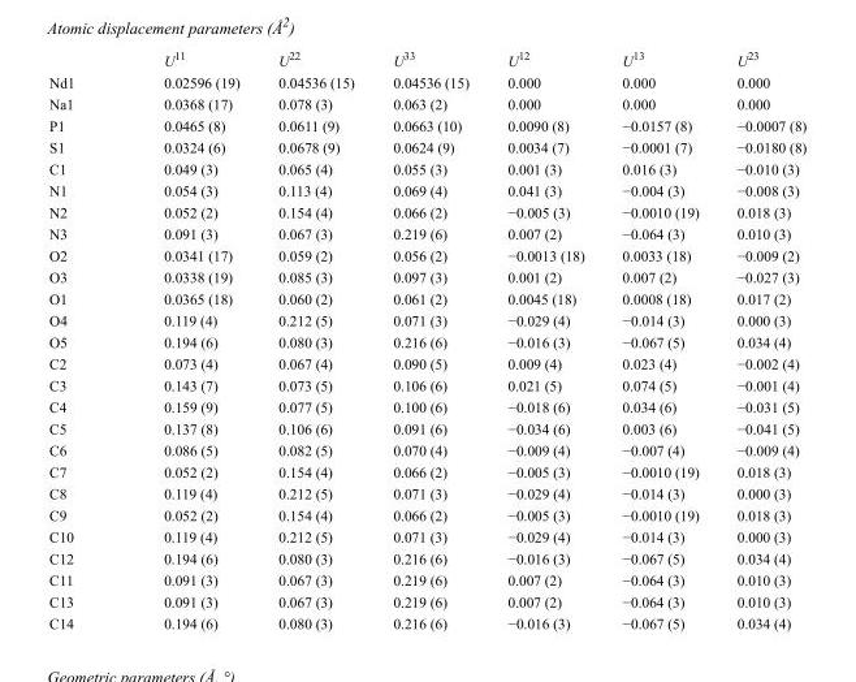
<table><thead><tr><td></td><td>U<sup>11</sup></td><td>U<sup>22</sup></td><td>U<sup>33</sup></td><td>U<sup>12</sup></td><td>U<sup>13</sup></td><td>U<sup>23</sup></td></tr></thead><tbody><tr><td>Nd1</td><td>0.02596 (19)</td><td>0.04536 (15)</td><td>0.04536 (15)</td><td>0.000</td><td>0.000</td><td>0.000</td></tr><tr><td>Na1</td><td>0.0368 (17)</td><td>0.078 (3)</td><td>0.063 (2)</td><td>0.000</td><td>0.000</td><td>0.000</td></tr><tr><td>P1</td><td>0.0465 (8)</td><td>0.0611 (9)</td><td>0.0663 (10)</td><td>0.0090 (8)</td><td>−0.0157 (8)</td><td>−0.0007 (8)</td></tr><tr><td>S1</td><td>0.0324 (6)</td><td>0.0678 (9)</td><td>0.0624 (9)</td><td>0.0034 (7)</td><td>−0.0001 (7)</td><td>−0.0180 (8)</td></tr><tr><td>C1</td><td>0.049 (3)</td><td>0.065 (4)</td><td>0.055 (3)</td><td>0.001 (3)</td><td>0.016 (3)</td><td>−0.010 (3)</td></tr><tr><td>N1</td><td>0.054 (3)</td><td>0.113 (4)</td><td>0.069 (4)</td><td>0.041 (3)</td><td>−0.004 (3)</td><td>−0.008 (3)</td></tr><tr><td>N2</td><td>0.052 (2)</td><td>0.154 (4)</td><td>0.066 (2)</td><td>−0.005 (3)</td><td>−0.0010 (19)</td><td>0.018 (3)</td></tr><tr><td>N3</td><td>0.091 (3)</td><td>0.067 (3)</td><td>0.219 (6)</td><td>0.007 (2)</td><td>−0.064 (3)</td><td>0.010 (3)</td></tr><tr><td>O2</td><td>0.0341 (17)</td><td>0.059 (2)</td><td>0.056 (2)</td><td>−0.0013 (18)</td><td>0.0033 (18)</td><td>−0.009 (2)</td></tr><tr><td>O3</td><td>0.0338 (19)</td><td>0.085 (3)</td><td>0.097 (3)</td><td>0.001 (2)</td><td>0.007 (2)</td><td>−0.027 (3)</td></tr><tr><td>O1</td><td>0.0365 (18)</td><td>0.060 (2)</td><td>0.061 (2)</td><td>0.0045 (18)</td><td>0.0008 (18)</td><td>0.017 (2)</td></tr><tr><td>O4</td><td>0.119 (4)</td><td>0.212 (5)</td><td>0.071 (3)</td><td>−0.029 (4)</td><td>−0.014 (3)</td><td>0.000 (3)</td></tr><tr><td>O5</td><td>0.194 (6)</td><td>0.080 (3)</td><td>0.216 (6)</td><td>−0.016 (3)</td><td>−0.067 (5)</td><td>0.034 (4)</td></tr><tr><td>C2</td><td>0.073 (4)</td><td>0.067 (4)</td><td>0.090 (5)</td><td>0.009 (4)</td><td>0.023 (4)</td><td>−0.002 (4)</td></tr><tr><td>C3</td><td>0.143 (7)</td><td>0.073 (5)</td><td>0.106 (6)</td><td>0.021 (5)</td><td>0.074 (5)</td><td>−0.001 (4)</td></tr><tr><td>C4</td><td>0.159 (9)</td><td>0.077 (5)</td><td>0.100 (6)</td><td>−0.018 (6)</td><td>0.034 (6)</td><td>−0.031 (5)</td></tr><tr><td>C5</td><td>0.137 (8)</td><td>0.106 (6)</td><td>0.091 (6)</td><td>−0.034 (6)</td><td>0.003 (6)</td><td>−0.041 (5)</td></tr><tr><td>C6</td><td>0.086 (5)</td><td>0.082 (5)</td><td>0.070 (4)</td><td>−0.009 (4)</td><td>−0.007 (4)</td><td>−0.009 (4)</td></tr><tr><td>C7</td><td>0.052 (2)</td><td>0.154 (4)</td><td>0.066 (2)</td><td>−0.005 (3)</td><td>−0.0010 (19)</td><td>0.018 (3)</td></tr><tr><td>C8</td><td>0.119 (4)</td><td>0.212 (5)</td><td>0.071 (3)</td><td>−0.029 (4)</td><td>−0.014 (3)</td><td>0.000 (3)</td></tr><tr><td>C9</td><td>0.052 (2)</td><td>0.154 (4)</td><td>0.066 (2)</td><td>−0.005 (3)</td><td>−0.0010 (19)</td><td>0.018 (3)</td></tr><tr><td>C10</td><td>0.119 (4)</td><td>0.212 (5)</td><td>0.071 (3)</td><td>−0.029 (4)</td><td>−0.014 (3)</td><td>0.000 (3)</td></tr><tr><td>C12</td><td>0.194 (6)</td><td>0.080 (3)</td><td>0.216 (6)</td><td>−0.016 (3)</td><td>−0.067 (5)</td><td>0.034 (4)</td></tr><tr><td>C11</td><td>0.091 (3)</td><td>0.067 (3)</td><td>0.219 (6)</td><td>0.007 (2)</td><td>−0.064 (3)</td><td>0.010 (3)</td></tr><tr><td>C13</td><td>0.091 (3)</td><td>0.067 (3)</td><td>0.219 (6)</td><td>0.007 (2)</td><td>−0.064 (3)</td><td>0.010 (3)</td></tr><tr><td>C14</td><td>0.194 (6)</td><td>0.080 (3)</td><td>0.216 (6)</td><td>−0.016 (3)</td><td>−0.067 (5)</td><td>0.034 (4)</td></tr></tbody></table>